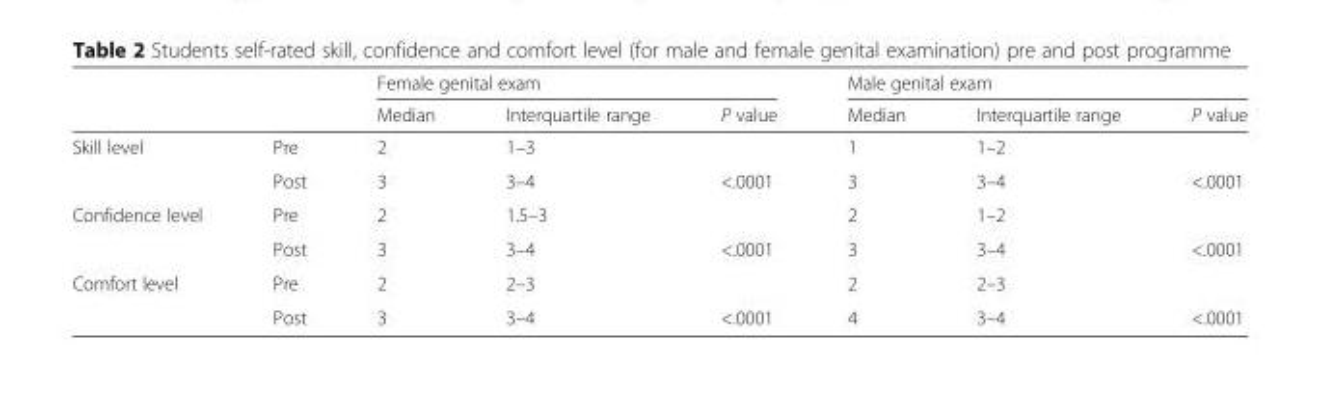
<table><thead><tr><td rowspan="2"></td><td rowspan="2"></td><td colspan="3">Female genital exam</td><td colspan="3">Male genital exam</td></tr><tr><td>Median</td><td>Interquartile range</td><td>P value</td><td>Median</td><td>Interquartile range</td><td>P value</td></tr></thead><tbody><tr><td rowspan="2">Skill level</td><td>Pre</td><td>2</td><td>1–3</td><td></td><td>1</td><td>1–2</td><td></td></tr><tr><td>Post</td><td>3</td><td>3–4</td><td>&lt;.0001</td><td>3</td><td>3–4</td><td>&lt;.0001</td></tr><tr><td rowspan="2">Confidence level</td><td>Pre</td><td>2</td><td>1.5–3</td><td></td><td>2</td><td>1–2</td><td></td></tr><tr><td>Post</td><td>3</td><td>3–4</td><td>&lt;.0001</td><td>3</td><td>3–4</td><td>&lt;.0001</td></tr><tr><td rowspan="2">Comfort level</td><td>Pre</td><td>2</td><td>2–3</td><td></td><td>2</td><td>2–3</td><td></td></tr><tr><td>Post</td><td>3</td><td>3–4</td><td>&lt;.0001</td><td>4</td><td>3–4</td><td>&lt;.0001</td></tr></tbody></table>